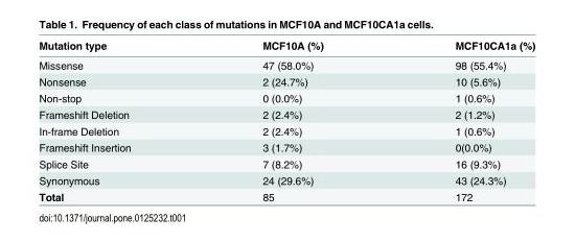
<table><thead><tr><td>Mutation type</td><td>MCF10A (%)</td><td>MCF10CA1a (%)</td></tr></thead><tbody><tr><td>Missense</td><td>47 (58.0%)</td><td>98 (55.4%)</td></tr><tr><td>Nonsense</td><td>2 (24.7%)</td><td>10 (5.6%)</td></tr><tr><td>Non-stop</td><td>0 (0.0%)</td><td>1 (0.6%)</td></tr><tr><td>Frameshift Deletion</td><td>2 (2.4%)</td><td>2 (1.2%)</td></tr><tr><td>In-frame Deletion</td><td>2 (2.4%)</td><td>1 (0.6%)</td></tr><tr><td>Frameshift Insertion</td><td>3 (1.7%)</td><td>0(0.0%)</td></tr><tr><td>Splice Site</td><td>7 (8.2%)</td><td>16 (9.3%)</td></tr><tr><td>Synonymous</td><td>24 (29.6%)</td><td>43 (24.3%)</td></tr><tr><td>Total</td><td>85</td><td>172</td></tr></tbody></table>